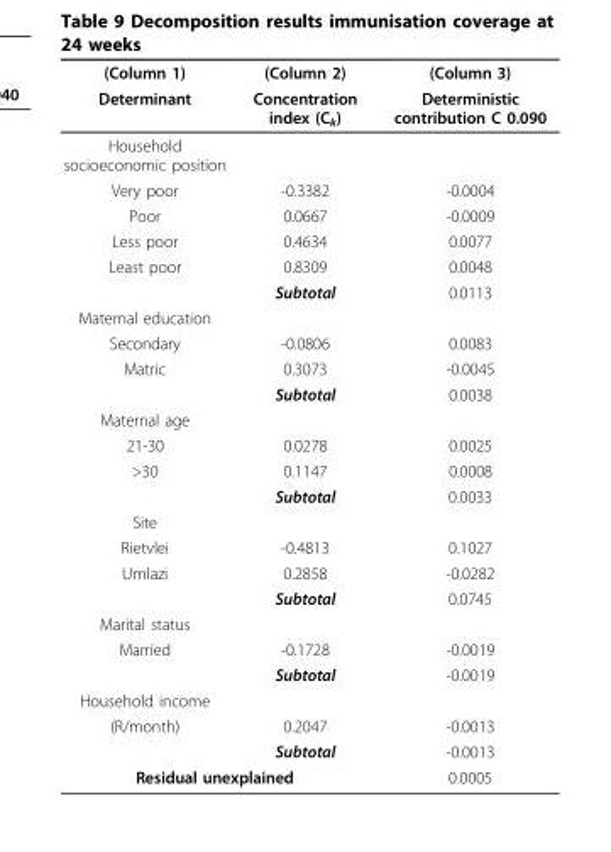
<table><thead><tr><td rowspan="2">(Column 1) Determinant</td><td rowspan="2">(Column 2) Concentration index (C<sub>k</sub>)</td><td rowspan="2">(Column 3) Deterministic contribution C 0.090</td></tr><tr></tr></thead><tbody><tr><td colspan="3">Household socioeconomic position</td></tr><tr><td>Very poor</td><td>-0.3382</td><td>-0.0004</td></tr><tr><td>Poor</td><td>0.0667</td><td>-0.0009</td></tr><tr><td>Less poor</td><td>0.4634</td><td>0.0077</td></tr><tr><td rowspan="2">Least poor</td><td>0.8309</td><td>0.0048</td></tr><tr><td>Subtotal</td><td>0.0113</td></tr><tr><td colspan="3">Maternal education</td></tr><tr><td>Secondary</td><td>-0.0806</td><td>0.0083</td></tr><tr><td rowspan="2">Matric</td><td>0.3073</td><td>-0.0045</td></tr><tr><td>Subtotal</td><td>0.0038</td></tr><tr><td colspan="3">Maternal age</td></tr><tr><td>21-30</td><td>0.0278</td><td>0.0025</td></tr><tr><td rowspan="2">&gt;30</td><td>0.1147</td><td>0.0008</td></tr><tr><td>Subtotal</td><td>0.0033</td></tr><tr><td colspan="3">Site</td></tr><tr><td>Rietvlei</td><td>-0.4813</td><td>0.1027</td></tr><tr><td rowspan="2">Umlazi</td><td>0.2858</td><td>-0.0282</td></tr><tr><td>Subtotal</td><td>0.0745</td></tr><tr><td colspan="3">Marital status</td></tr><tr><td rowspan="2">Married</td><td>-0.1728</td><td>-0.0019</td></tr><tr><td>Subtotal</td><td>-0.0019</td></tr><tr><td colspan="3">Household income</td></tr><tr><td rowspan="2">(R/month)</td><td>0.2047</td><td>-0.0013</td></tr><tr><td>Subtotal</td><td>-0.0013</td></tr><tr><td colspan="2">Residual unexplained</td><td>0.0005</td></tr></tbody></table>